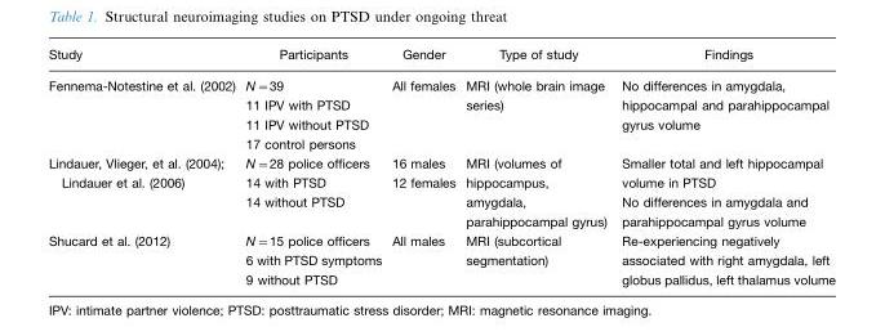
<table><thead><tr><td>Study</td><td>Participants</td><td>Gender</td><td>Type of study</td><td>Findings</td></tr></thead><tbody><tr><td>Fennema-Notestine et al. (2002)</td><td>N=39 11 IPV with PTSD 11 IPV without PTSD 17 control persons</td><td>All females</td><td>MRI (whole brain image series)</td><td>No differences in amygdala, hippocampal and parahippocampal gyrus volume</td></tr><tr><td>Lindauer, Vlieger, et al. (2004); Lindauer et al. (2006)</td><td>N=28 police officers 14 with PTSD 14 without PTSD</td><td>16 males 12 females</td><td>MRI (volumes of hippocampus, amygdala, parahippocampal gyrus)</td><td>Smaller total and left hippocampal volume in PTSD No differences in amygdala and parahippocampal gyrus volume</td></tr><tr><td>Shucard et al. (2012)</td><td>N=15 police officers 6 with PTSD symptoms 9 without PTSD</td><td>All males</td><td>MRI (subcortical segmentation)</td><td>Re-experiencing negatively associated with right amygdala, left globus pallidus, left thalamus volume</td></tr></tbody></table>